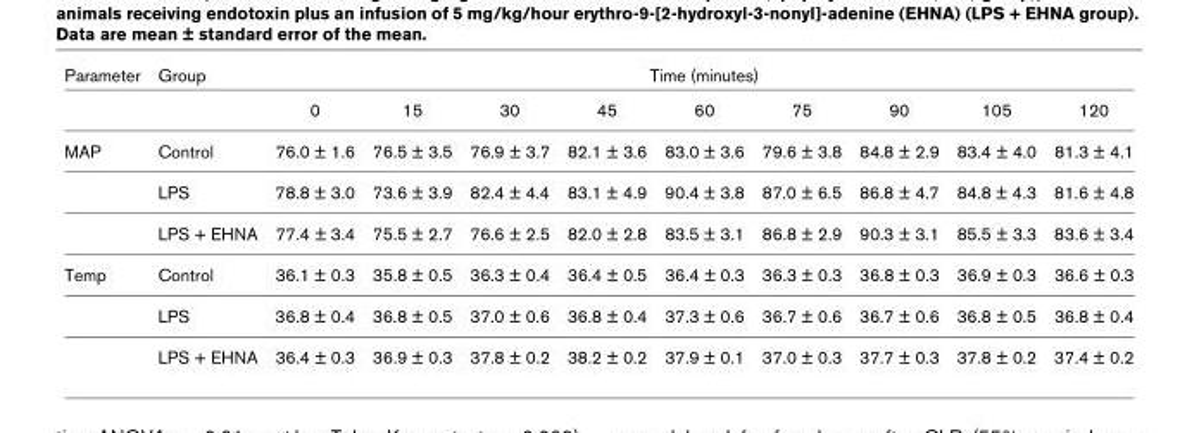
<table><thead><tr><td rowspan="2">Parameter</td><td rowspan="2">Group</td><td colspan="9">Time (minutes)</td></tr><tr><td>0</td><td>15</td><td>30</td><td>45</td><td>60</td><td>75</td><td>90</td><td>105</td><td>120</td></tr></thead><tbody><tr><td rowspan="3">MAP</td><td>Control</td><td>76.0 ± 1.6</td><td>76.5 ± 3.5</td><td>76.9 ± 3.7</td><td>82.1 ± 3.6</td><td>83.0 ± 3.6</td><td>79.6 ± 3.8</td><td>84.8 ± 2.9</td><td>83.4 ± 4.0</td><td>81.3 ± 4.1</td></tr><tr><td>LPS</td><td>78.8 ± 3.0</td><td>73.6 ± 3.9</td><td>82.4 ± 4.4</td><td>83.1 ± 4.9</td><td>90.4 ± 3.8</td><td>87.0 ± 6.5</td><td>86.8 ± 4.7</td><td>84.8 ± 4.3</td><td>81.6 ± 4.8</td></tr><tr><td>LPS + EHNA</td><td>77.4 ± 3.4</td><td>75.5 ± 2.7</td><td>76.6 ± 2.5</td><td>82.0 ± 2.8</td><td>83.5 ± 3.1</td><td>86.8 ± 2.9</td><td>90.3 ± 3.1</td><td>85.5 ± 3.3</td><td>83.6 ± 3.4</td></tr><tr><td rowspan="3">Temp</td><td>Control</td><td>36.1 ± 0.3</td><td>35.8 ± 0.5</td><td>36.3 ± 0.4</td><td>36.4 ± 0.5</td><td>36.4 ± 0.3</td><td>36.3 ± 0.3</td><td>36.8 ± 0.3</td><td>36.9 ± 0.3</td><td>36.6 ± 0.3</td></tr><tr><td>LPS</td><td>36.8 ± 0.4</td><td>36.8 ± 0.5</td><td>37.0 ± 0.6</td><td>36.8 ± 0.4</td><td>37.3 ± 0.6</td><td>36.7 ± 0.6</td><td>36.7 ± 0.6</td><td>36.8 ± 0.5</td><td>36.8 ± 0.4</td></tr><tr><td>LPS + EHNA</td><td>36.4 ± 0.3</td><td>36.9 ± 0.3</td><td>37.8 ± 0.2</td><td>38.2 ± 0.2</td><td>37.9 ± 0.1</td><td>37.0 ± 0.3</td><td>37.7 ± 0.3</td><td>37.8 ± 0.2</td><td>37.4 ± 0.2</td></tr></tbody></table>